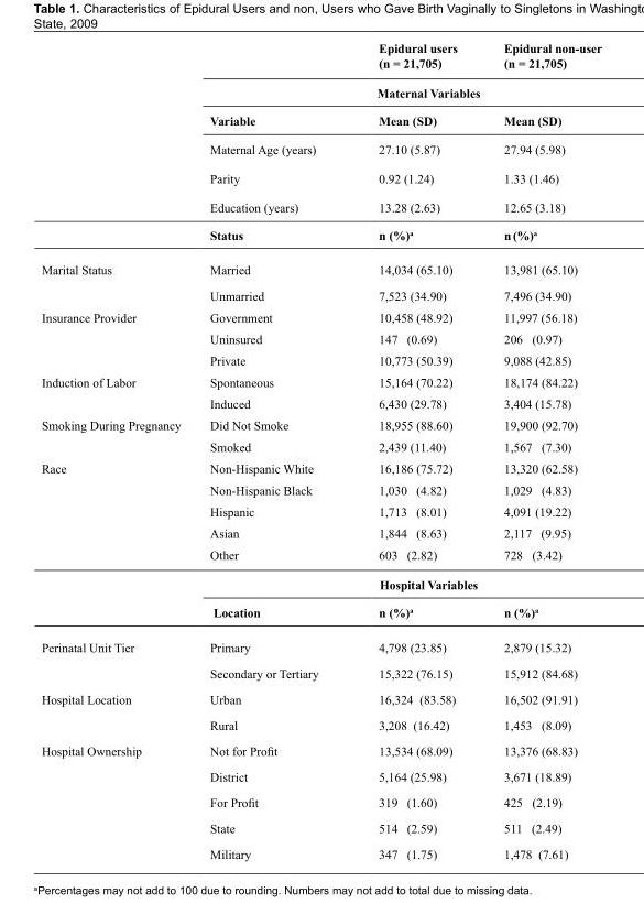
<table><thead><tr><td></td><td></td><td>Epidural users (n = 21,705)</td><td>Epidural non-user (n = 21,705)</td></tr></thead><tbody><tr><td></td><td colspan="3">Maternal Variables</td></tr><tr><td></td><td>Variable</td><td>Mean (SD)</td><td>Mean (SD)</td></tr><tr><td></td><td>Maternal Age (years)</td><td>27.10 (5.87)</td><td>27.94 (5.98)</td></tr><tr><td></td><td>Parity</td><td>0.92 (1.24)</td><td>1.33 (1.46)</td></tr><tr><td></td><td>Education (years)</td><td>13.28 (2.63)</td><td>12.65 (3.18)</td></tr><tr><td></td><td>Status</td><td>n (%)<sup>a</sup></td><td>n (%)<sup>a</sup></td></tr><tr><td rowspan="2">Marital Status</td><td>Married</td><td>14,034 (65.10)</td><td>13,981 (65.10)</td></tr><tr><td>Unmarried</td><td>7,523 (34.90)</td><td>7,496 (34.90)</td></tr><tr><td rowspan="3">Insurance Provider</td><td>Government</td><td>10,458 (48.92)</td><td>11,997 (56.18)</td></tr><tr><td>Uninsured</td><td>147 (0.69)</td><td>206 (0.97)</td></tr><tr><td>Private</td><td>10,773 (50.39)</td><td>9,088 (42.85)</td></tr><tr><td rowspan="2">Induction of Labor</td><td>Spontaneous</td><td>15,164 (70.22)</td><td>18,174 (84.22)</td></tr><tr><td>Induced</td><td>6,430 (29.78)</td><td>3,404 (15.78)</td></tr><tr><td rowspan="2">Smoking During Pregnancy</td><td>Did Not Smoke</td><td>18,955 (88.60)</td><td>19,900 (92.70)</td></tr><tr><td>Smoked</td><td>2,439 (11.40)</td><td>1,567 (7.30)</td></tr><tr><td rowspan="7">Race</td><td>Non-Hispanic White</td><td>16,186 (75.72)</td><td>13,320 (62.58)</td></tr><tr><td>Non-Hispanic Black</td><td>1,030 (4.82)</td><td>1,029 (4.83)</td></tr><tr><td>Hispanic</td><td>1,713 (8.01)</td><td>4,091 (19.22)</td></tr><tr><td>Asian</td><td>1,844 (8.63)</td><td>2,117 (9.95)</td></tr><tr><td>Other</td><td>603 (2.82)</td><td>728 (3.42)</td></tr><tr><td colspan="3">Hospital Variables</td></tr><tr><td>Location</td><td>n (%)<sup>a</sup></td><td>n (%)<sup>a</sup></td></tr><tr><td rowspan="2">Perinatal Unit Tier</td><td>Primary</td><td>4,798 (23.85)</td><td>2,879 (15.32)</td></tr><tr><td>Secondary or Tertiary</td><td>15,322 (76.15)</td><td>15,912 (84.68)</td></tr><tr><td rowspan="2">Hospital Location</td><td>Urban</td><td>16,324 (83.58)</td><td>16,502 (91.91)</td></tr><tr><td>Rural</td><td>3,208 (16.42)</td><td>1,453 (8.09)</td></tr><tr><td rowspan="5">Hospital Ownership</td><td>Not for Profit</td><td>13,534 (68.09)</td><td>13,376 (68.83)</td></tr><tr><td>District</td><td>5,164 (25.98)</td><td>3,671 (18.89)</td></tr><tr><td>For Profit</td><td>319 (1.60)</td><td>425 (2.19)</td></tr><tr><td>State</td><td>514 (2.59)</td><td>511 (2.49)</td></tr><tr><td>Military</td><td>347 (1.75)</td><td>1,478 (7.61)</td></tr></tbody></table>